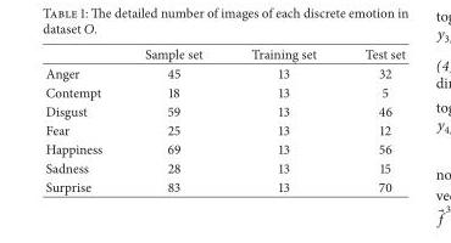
<table><thead><tr><td></td><td>Sample set</td><td>Training set</td><td>Test set</td></tr></thead><tbody><tr><td>Anger</td><td>45</td><td>13</td><td>32</td></tr><tr><td>Contempt</td><td>18</td><td>13</td><td>5</td></tr><tr><td>Disgust</td><td>59</td><td>13</td><td>46</td></tr><tr><td>Fear</td><td>25</td><td>13</td><td>12</td></tr><tr><td>Happiness</td><td>69</td><td>13</td><td>56</td></tr><tr><td>Sadness</td><td>28</td><td>13</td><td>15</td></tr><tr><td>Surprise</td><td>83</td><td>13</td><td>70</td></tr></tbody></table>